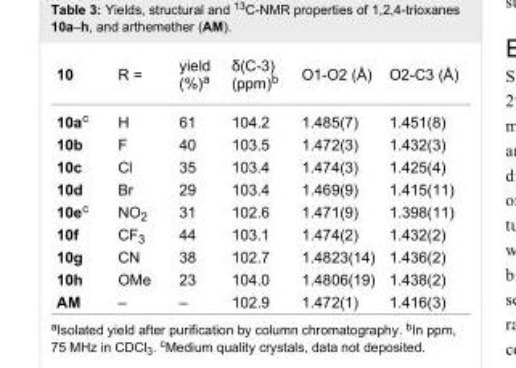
<table><tbody><tr><td>10</td><td>R =</td><td>yield (%)<sup>a</sup></td><td>δ(C-3) (ppm)<sup>b</sup></td><td>O1-O2 (Å)</td><td>O2-C3 (Å)</td></tr><tr><td>10a<sup>c</sup></td><td>H</td><td>61</td><td>104.2</td><td>1.485(7)</td><td>1.451(8)</td></tr><tr><td>10b</td><td>F</td><td>40</td><td>103.5</td><td>1.472(3)</td><td>1.432(3)</td></tr><tr><td>10c</td><td>Cl</td><td>35</td><td>103.4</td><td>1.474(3)</td><td>1.425(4)</td></tr><tr><td>10d</td><td>Br</td><td>29</td><td>103.4</td><td>1.469(9)</td><td>1.415(11)</td></tr><tr><td>10e<sup>c</sup></td><td>NO<sub>2</sub></td><td>31</td><td>102.6</td><td>1.471(9)</td><td>1.398(11)</td></tr><tr><td>10f</td><td>CF<sub>3</sub></td><td>44</td><td>103.1</td><td>1.474(2)</td><td>1.432(2)</td></tr><tr><td>10g</td><td>CN</td><td>38</td><td>102.7</td><td>1.4823(14)</td><td>1.436(2)</td></tr><tr><td>10h</td><td>OMe</td><td>23</td><td>104.0</td><td>1.4806(19)</td><td>1.438(2)</td></tr><tr><td>AM</td><td>–</td><td>–</td><td>102.9</td><td>1.472(1)</td><td>1.416(3)</td></tr></tbody></table>